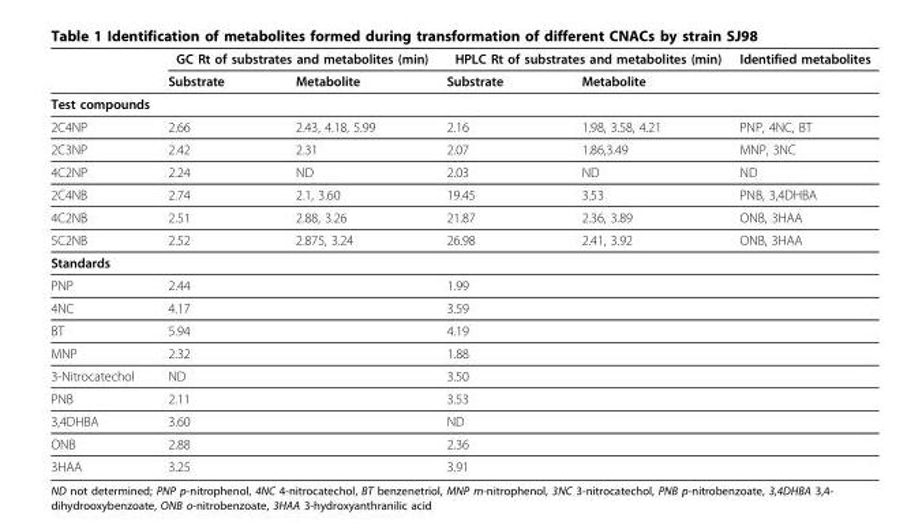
<table><thead><tr><td rowspan="2"></td><td colspan="2">GC Rt of substrates and metabolites (min)</td><td colspan="2">HPLC Rt of substrates and metabolites (min)</td><td rowspan="2">Identified metabolites</td></tr><tr><td>Substrate</td><td>Metabolite</td><td>Substrate</td><td>Metabolite</td></tr></thead><tbody><tr><td colspan="6">Test compounds</td></tr><tr><td>2C4NP</td><td>2.66</td><td>2.43, 4.18, 5.99</td><td>2.16</td><td>1.98, 3.58, 4.21</td><td>PNP, 4NC, BT</td></tr><tr><td>2C3NP</td><td>2.42</td><td>2.31</td><td>2.07</td><td>1.86,3.49</td><td>MNP, 3NC</td></tr><tr><td>4C2NP</td><td>2.24</td><td>ND</td><td>2.03</td><td>ND</td><td>ND</td></tr><tr><td>2C4NB</td><td>2.74</td><td>2.1, 3.60</td><td>19.45</td><td>3.53</td><td>PNB, 3,4DHBA</td></tr><tr><td>4C2NB</td><td>2.51</td><td>2.88, 3.26</td><td>21.87</td><td>2.36, 3.89</td><td>ONB, 3HAA</td></tr><tr><td>5C2NB</td><td>2.52</td><td>2.875, 3.24</td><td>26.98</td><td>2.41, 3.92</td><td>ONB, 3HAA</td></tr><tr><td colspan="6">Standards</td></tr><tr><td>PNP</td><td>2.44</td><td></td><td>1.99</td><td></td><td></td></tr><tr><td>4NC</td><td>4.17</td><td></td><td>3.59</td><td></td><td></td></tr><tr><td>BT</td><td>5.94</td><td></td><td>4.19</td><td></td><td></td></tr><tr><td>MNP</td><td>2.32</td><td></td><td>1.88</td><td></td><td></td></tr><tr><td>3-Nitrocatechol</td><td>ND</td><td></td><td>3.50</td><td></td><td></td></tr><tr><td>PNB</td><td>2.11</td><td></td><td>3.53</td><td></td><td></td></tr><tr><td>3,4DHBA</td><td>3.60</td><td></td><td>ND</td><td></td><td></td></tr><tr><td>ONB</td><td>2.88</td><td></td><td>2.36</td><td></td><td></td></tr><tr><td>3HAA</td><td>3.25</td><td></td><td>3.91</td><td></td><td></td></tr></tbody></table>